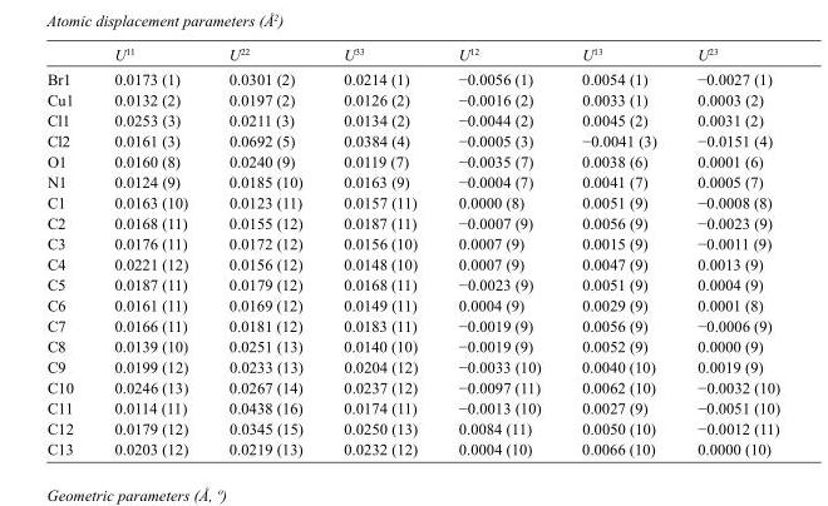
<table><thead><tr><td></td><td>U<sup>11</sup></td><td>U<sup>22</sup></td><td>U<sup>33</sup></td><td>U<sup>12</sup></td><td>U<sup>13</sup></td><td>U<sup>23</sup></td></tr></thead><tbody><tr><td>Br1</td><td>0.0173 (1)</td><td>0.0301 (2)</td><td>0.0214 (1)</td><td>−0.0056 (1)</td><td>0.0054 (1)</td><td>−0.0027 (1)</td></tr><tr><td>Cu1</td><td>0.0132 (2)</td><td>0.0197 (2)</td><td>0.0126 (2)</td><td>−0.0016 (2)</td><td>0.0033 (1)</td><td>0.0003 (2)</td></tr><tr><td>Cl1</td><td>0.0253 (3)</td><td>0.0211 (3)</td><td>0.0134 (2)</td><td>−0.0044 (2)</td><td>0.0045 (2)</td><td>0.0031 (2)</td></tr><tr><td>Cl2</td><td>0.0161 (3)</td><td>0.0692 (5)</td><td>0.0384 (4)</td><td>−0.0005 (3)</td><td>−0.0041 (3)</td><td>−0.0151 (4)</td></tr><tr><td>O1</td><td>0.0160 (8)</td><td>0.0240 (9)</td><td>0.0119 (7)</td><td>−0.0035 (7)</td><td>0.0038 (6)</td><td>0.0001 (6)</td></tr><tr><td>N1</td><td>0.0124 (9)</td><td>0.0185 (10)</td><td>0.0163 (9)</td><td>−0.0004 (7)</td><td>0.0041 (7)</td><td>0.0005 (7)</td></tr><tr><td>C1</td><td>0.0163 (10)</td><td>0.0123 (11)</td><td>0.0157 (11)</td><td>0.0000 (8)</td><td>0.0051 (9)</td><td>−0.0008 (8)</td></tr><tr><td>C2</td><td>0.0168 (11)</td><td>0.0155 (12)</td><td>0.0187 (11)</td><td>−0.0007 (9)</td><td>0.0056 (9)</td><td>−0.0023 (9)</td></tr><tr><td>C3</td><td>0.0176 (11)</td><td>0.0172 (12)</td><td>0.0156 (10)</td><td>0.0007 (9)</td><td>0.0015 (9)</td><td>−0.0011 (9)</td></tr><tr><td>C4</td><td>0.0221 (12)</td><td>0.0156 (12)</td><td>0.0148 (10)</td><td>0.0007 (9)</td><td>0.0047 (9)</td><td>0.0013 (9)</td></tr><tr><td>C5</td><td>0.0187 (11)</td><td>0.0179 (12)</td><td>0.0168 (11)</td><td>−0.0023 (9)</td><td>0.0051 (9)</td><td>0.0004 (9)</td></tr><tr><td>C6</td><td>0.0161 (11)</td><td>0.0169 (12)</td><td>0.0149 (11)</td><td>0.0004 (9)</td><td>0.0029 (9)</td><td>0.0001 (8)</td></tr><tr><td>C7</td><td>0.0166 (11)</td><td>0.0181 (12)</td><td>0.0183 (11)</td><td>−0.0019 (9)</td><td>0.0056 (9)</td><td>−0.0006 (9)</td></tr><tr><td>C8</td><td>0.0139 (10)</td><td>0.0251 (13)</td><td>0.0140 (10)</td><td>−0.0019 (9)</td><td>0.0052 (9)</td><td>0.0000 (9)</td></tr><tr><td>C9</td><td>0.0199 (12)</td><td>0.0233 (13)</td><td>0.0204 (12)</td><td>−0.0033 (10)</td><td>0.0040 (10)</td><td>0.0019 (9)</td></tr><tr><td>C10</td><td>0.0246 (13)</td><td>0.0267 (14)</td><td>0.0237 (12)</td><td>−0.0097 (11)</td><td>0.0062 (10)</td><td>−0.0032 (10)</td></tr><tr><td>C11</td><td>0.0114 (11)</td><td>0.0438 (16)</td><td>0.0174 (11)</td><td>−0.0013 (10)</td><td>0.0027 (9)</td><td>−0.0051 (10)</td></tr><tr><td>C12</td><td>0.0179 (12)</td><td>0.0345 (15)</td><td>0.0250 (13)</td><td>0.0084 (11)</td><td>0.0050 (10)</td><td>−0.0012 (11)</td></tr><tr><td>C13</td><td>0.0203 (12)</td><td>0.0219 (13)</td><td>0.0232 (12)</td><td>0.0004 (10)</td><td>0.0066 (10)</td><td>0.0000 (10)</td></tr></tbody></table>